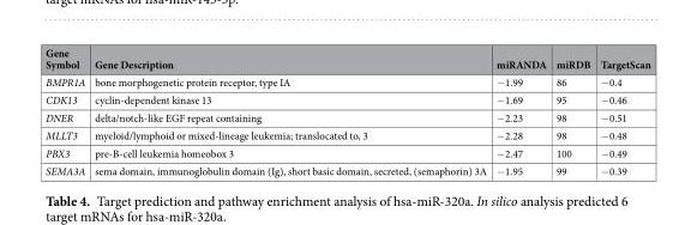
<table><thead><tr><td>Gene Symbol</td><td>Gene Description</td><td>miRANDA</td><td>miRDB</td><td>TargetScan</td></tr></thead><tbody><tr><td>BMPR1A</td><td>bone morphogenetic protein receptor, type IA</td><td>−1.99</td><td>86</td><td>−0.4</td></tr><tr><td>CDK13</td><td>cyclin-dependent kinase 13</td><td>−1.69</td><td>95</td><td>−0.46</td></tr><tr><td>DNER</td><td>delta/notch-like EGF repeat containing</td><td>−2.23</td><td>98</td><td>−0.51</td></tr><tr><td>MLLT3</td><td>myeloid/lymphoid or mixed-lineage leukemia; translocated to, 3</td><td>−2.28</td><td>98</td><td>−0.48</td></tr><tr><td>PBX3</td><td>pre-B-cell leukemia homeobox 3</td><td>−2.47</td><td>100</td><td>−0.49</td></tr><tr><td>SEMA3A</td><td>sema domain, immunoglobulin domain (Ig), short basic domain, secreted, (semaphorin) 3A</td><td>−1.95</td><td>99</td><td>−0.39</td></tr></tbody></table>